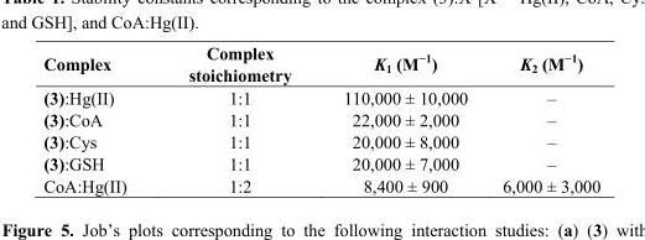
<table><thead><tr><td>Complex</td><td>Complex stoichiometry</td><td>K<sub>1</sub> (M<sup>−1</sup>)</td><td>K<sub>2</sub> (M<sup>−1</sup>)</td></tr></thead><tbody><tr><td>(3):Hg(II)</td><td>1:1</td><td>110,000 ± 10,000</td><td>–</td></tr><tr><td>(3):CoA</td><td>1:1</td><td>22,000 ± 2,000</td><td>–</td></tr><tr><td>(3):Cys</td><td>1:1</td><td>20,000 ± 8,000</td><td>–</td></tr><tr><td>(3):GSH</td><td>1:1</td><td>20,000 ± 7,000</td><td>–</td></tr><tr><td>CoA:Hg(II)</td><td>1:2</td><td>8,400 ± 900</td><td>6,000 ± 3,000</td></tr></tbody></table>